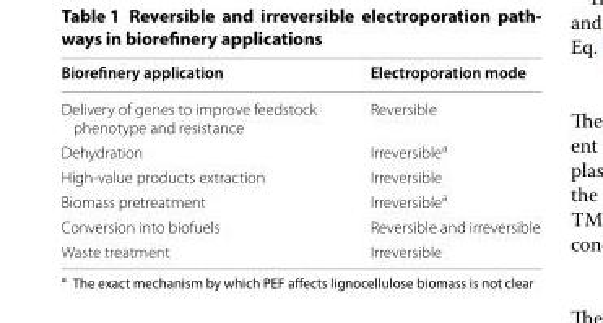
<table><thead><tr><td>Biorefinery application</td><td>Electroporation mode</td></tr></thead><tbody><tr><td>Delivery of genes to improve feedstock phenotype and resistance</td><td>Reversible</td></tr><tr><td>Dehydration</td><td>Irreversible<sup>a</sup></td></tr><tr><td>High-value products extraction</td><td>Irreversible</td></tr><tr><td>Biomass pretreatment</td><td>Irreversible<sup>a</sup></td></tr><tr><td>Conversion into biofuels</td><td>Reversible and irreversible</td></tr><tr><td>Waste treatment</td><td>Irreversible</td></tr></tbody></table>